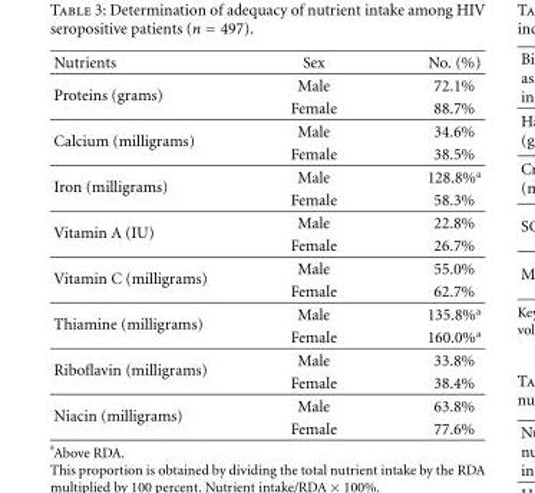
<table><thead><tr><td>Nutrients</td><td>Sex</td><td>No. (%)</td></tr></thead><tbody><tr><td rowspan="2">Proteins (grams)</td><td>Male</td><td>72.1%</td></tr><tr><td>Female</td><td>88.7%</td></tr><tr><td rowspan="2">Calcium (milligrams)</td><td>Male</td><td>34.6%</td></tr><tr><td>Female</td><td>38.5%</td></tr><tr><td rowspan="2">Iron (milligrams)</td><td>Male</td><td>128.8%<sup>a</sup></td></tr><tr><td>Female</td><td>58.3%</td></tr><tr><td rowspan="2">Vitamin A (IU)</td><td>Male</td><td>22.8%</td></tr><tr><td>Female</td><td>26.7%</td></tr><tr><td rowspan="2">Vitamin C (milligrams)</td><td>Male</td><td>55.0%</td></tr><tr><td>Female</td><td>62.7%</td></tr><tr><td rowspan="2">Thiamine (milligrams)</td><td>Male</td><td>135.8%<sup>a</sup></td></tr><tr><td>Female</td><td>160.0%<sup>a</sup></td></tr><tr><td rowspan="2">Riboflavin (milligrams)</td><td>Male</td><td>33.8%</td></tr><tr><td>Female</td><td>38.4%</td></tr><tr><td rowspan="2">Niacin (milligrams)</td><td>Male</td><td>63.8%</td></tr><tr><td>Female</td><td>77.6%</td></tr></tbody></table>